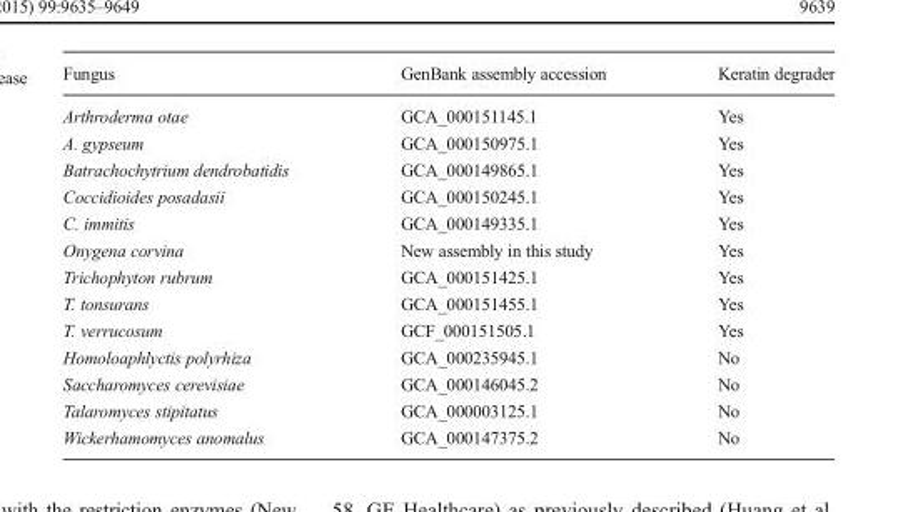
<table><thead><tr><td>Fungus</td><td>GenBank assembly accession</td><td>Keratin degrader</td></tr></thead><tbody><tr><td>Arthroderma otae</td><td>GCA_000151145.1</td><td>Yes</td></tr><tr><td>A. gypseum</td><td>GCA_000150975.1</td><td>Yes</td></tr><tr><td>Batrachochytrium dendrobatidis</td><td>GCA_000149865.1</td><td>Yes</td></tr><tr><td>Coccidioides posadasii</td><td>GCA_000150245.1</td><td>Yes</td></tr><tr><td>C. immitis</td><td>GCA_000149335.1</td><td>Yes</td></tr><tr><td>Onygena corvina</td><td>New assembly in this study</td><td>Yes</td></tr><tr><td>Trichophyton rubrum</td><td>GCA_000151425.1</td><td>Yes</td></tr><tr><td>T. tonsurans</td><td>GCA_000151455.1</td><td>Yes</td></tr><tr><td>T. verrucosum</td><td>GCF_000151505.1</td><td>Yes</td></tr><tr><td>Homoloaphlyctis polyrhiza</td><td>GCA_000235945.1</td><td>No</td></tr><tr><td>Saccharomyces cerevisiae</td><td>GCA_000146045.2</td><td>No</td></tr><tr><td>Talaromyces stipitatus</td><td>GCA_000003125.1</td><td>No</td></tr><tr><td>Wickerhamomyces anomalus</td><td>GCA_000147375.2</td><td>No</td></tr></tbody></table>